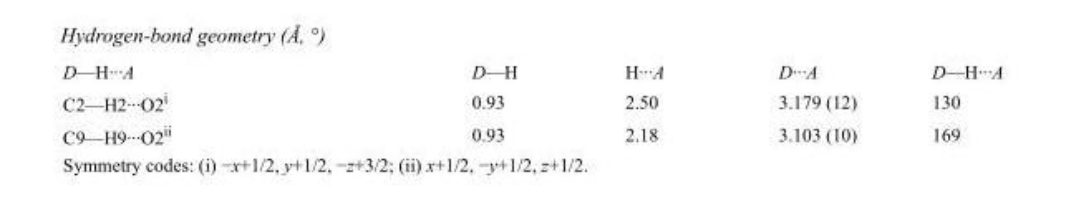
<table><tbody><tr><td>D—H···A</td><td>D—H</td><td>H···A</td><td>D···A</td><td>D—H···A</td></tr><tr><td>C2—H2···O2<sup>i</sup></td><td>0.93</td><td>2.50</td><td>3.179 (12)</td><td>130</td></tr><tr><td>C9—H9···O2<sup>ii</sup></td><td>0.93</td><td>2.18</td><td>3.103 (10)</td><td>169</td></tr></tbody></table>